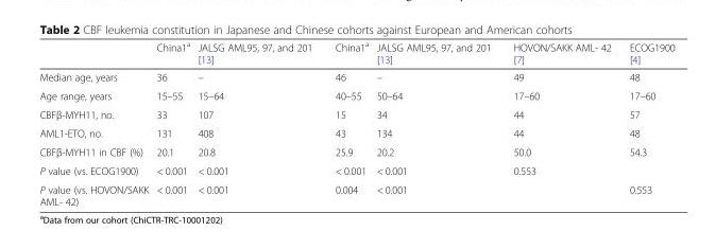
<table><thead><tr><td></td><td>China1<sup>a</sup></td><td>JALSG AML95, 97, and 201 [13]</td><td>China1<sup>a</sup></td><td>JALSG AML95, 97, and 201 [13]</td><td>HOVON/SAKK AML- 42 [7]</td><td>ECOG1900 [4]</td></tr></thead><tbody><tr><td>Median age, years</td><td>36</td><td>–</td><td>46</td><td>–</td><td>49</td><td>48</td></tr><tr><td>Age range, years</td><td>15–55</td><td>15–64</td><td>40–55</td><td>50–64</td><td>17–60</td><td>17–60</td></tr><tr><td>CBFβ-MYH11, no.</td><td>33</td><td>107</td><td>15</td><td>34</td><td>44</td><td>57</td></tr><tr><td>AML1-ETO, no.</td><td>131</td><td>408</td><td>43</td><td>134</td><td>44</td><td>48</td></tr><tr><td>CBFβ-MYH11 in CBF (%)</td><td>20.1</td><td>20.8</td><td>25.9</td><td>20.2</td><td>50.0</td><td>54.3</td></tr><tr><td>P value (vs. ECOG1900)</td><td>&lt; 0.001</td><td>&lt; 0.001</td><td>&lt; 0.001</td><td>&lt; 0.001</td><td>0.553</td><td></td></tr><tr><td>P value (vs. HOVON/SAKK AML- 42)</td><td>&lt; 0.001</td><td>&lt; 0.001</td><td>0.004</td><td>&lt; 0.001</td><td></td><td>0.553</td></tr></tbody></table>